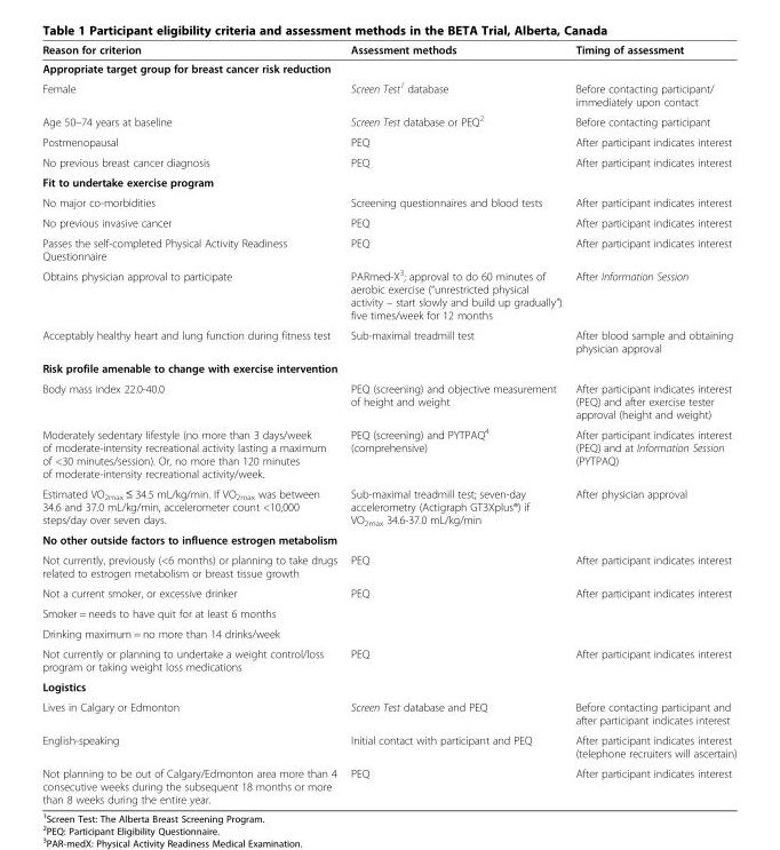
<table><thead><tr><td>Reason for criterion</td><td>Assessment methods</td><td>Timing of assessment</td></tr></thead><tbody><tr><td colspan="3">Appropriate target group for breast cancer risk reduction</td></tr><tr><td>Female</td><td>Screen Test<sup>1</sup> database</td><td>Before contacting participant/ immediately upon contact</td></tr><tr><td>Age 50–74 years at baseline</td><td>Screen Test database or PEQ<sup>2</sup></td><td>Before contacting participant</td></tr><tr><td>Postmenopausal</td><td>PEQ</td><td>After participant indicates interest</td></tr><tr><td>No previous breast cancer diagnosis</td><td>PEQ</td><td>After participant indicates interest</td></tr><tr><td colspan="3">Fit to undertake exercise program</td></tr><tr><td>No major co-morbidities</td><td>Screening questionnaires and blood tests</td><td>After participant indicates interest</td></tr><tr><td>No previous invasive cancer</td><td>PEQ</td><td>After participant indicates interest</td></tr><tr><td>Passes the self-completed Physical Activity Readiness Questionnaire</td><td>PEQ</td><td>After participant indicates interest</td></tr><tr><td>Obtains physician approval to participate</td><td>PARmed-X<sup>3</sup>; approval to do 60 minutes of aerobic exercise (“unrestricted physical activity – start slowly and build up gradually”) five times/week for 12 months</td><td>After Information Session</td></tr><tr><td>Acceptably healthy heart and lung function during fitness test</td><td>Sub-maximal treadmill test</td><td>After blood sample and obtaining physician approval</td></tr><tr><td colspan="3">Risk profile amenable to change with exercise intervention</td></tr><tr><td>Body mass index 22.0-40.0</td><td>PEQ (screening) and objective measurement of height and weight</td><td>After participant indicates interest (PEQ) and after exercise tester approval (height and weight)</td></tr><tr><td>Moderately sedentary lifestyle (no more than 3 days/week of moderate-intensity recreational activity lasting a maximum of &lt;30 minutes/session). Or, no more than 120 minutes of moderate-intensity recreational activity/week.</td><td>PEQ (screening) and PYTPAQ<sup>4</sup> (comprehensive)</td><td>After participant indicates interest (PEQ) and at Information Session (PYTPAQ)</td></tr><tr><td>Estimated VO<sub>2max</sub> ≤ 34.5 mL/kg/min. If VO<sub>2max</sub> was between 34.6 and 37.0 mL/kg/min, accelerometer count &lt;10,000 steps/day over seven days.</td><td>Sub-maximal treadmill test; seven-day accelerometry (Actigraph GT3Xplus®) if VO<sub>2max</sub> 34.6-37.0 mL/kg/min</td><td>After physician approval</td></tr><tr><td colspan="3">No other outside factors to influence estrogen metabolism</td></tr><tr><td>Not currently, previously (&lt;6 months) or planning to take drugs related to estrogen metabolism or breast tissue growth</td><td>PEQ</td><td>After participant indicates interest</td></tr><tr><td>Not a current smoker, or excessive drinker</td><td rowspan="3">PEQ</td><td rowspan="3">After participant indicates interest</td></tr><tr><td>Smoker = needs to have quit for at least 6 months</td></tr><tr><td>Drinking maximum = no more than 14 drinks/week</td></tr><tr><td>Not currently or planning to undertake a weight control/loss program or taking weight loss medications</td><td>PEQ</td><td>After participant indicates interest</td></tr><tr><td colspan="3">Logistics</td></tr><tr><td>Lives in Calgary or Edmonton</td><td>Screen Test database and PEQ</td><td>Before contacting participant and after participant indicates interest</td></tr><tr><td>English-speaking</td><td>Initial contact with participant and PEQ</td><td>After participant indicates interest (telephone recruiters will ascertain)</td></tr><tr><td>Not planning to be out of Calgary/Edmonton area more than 4 consecutive weeks during the subsequent 18 months or more than 8 weeks during the entire year.</td><td>PEQ</td><td>After participant indicates interest</td></tr></tbody></table>